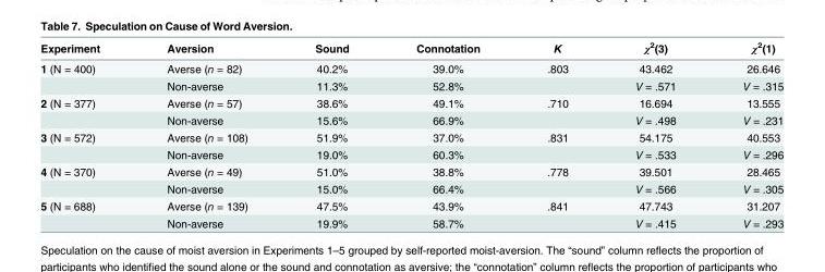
<table><thead><tr><td>Experiment</td><td>Aversion</td><td>Sound</td><td>Connotation</td><td>K</td><td>χ<sup>2</sup>(3)</td><td>χ<sup>2</sup>(1)</td></tr></thead><tbody><tr><td rowspan="2">1 (N = 400)</td><td>Averse (n = 82)</td><td>40.2%</td><td>39.0%</td><td>.803</td><td>43.462</td><td>26.646</td></tr><tr><td>Non-averse</td><td>11.3%</td><td>52.8%</td><td></td><td>V = .571</td><td>V = .315</td></tr><tr><td rowspan="2">2 (N = 377)</td><td>Averse (n = 57)</td><td>38.6%</td><td>49.1%</td><td>.710</td><td>16.694</td><td>13.555</td></tr><tr><td>Non-averse</td><td>15.6%</td><td>66.9%</td><td></td><td>V = .498</td><td>V = .231</td></tr><tr><td rowspan="2">3 (N = 572)</td><td>Averse (n = 108)</td><td>51.9%</td><td>37.0%</td><td>.831</td><td>54.175</td><td>40.553</td></tr><tr><td>Non-averse</td><td>19.0%</td><td>60.3%</td><td></td><td>V = .533</td><td>V = .296</td></tr><tr><td rowspan="2">4 (N = 370)</td><td>Averse (n = 49)</td><td>51.0%</td><td>38.8%</td><td>.778</td><td>39.501</td><td>28.465</td></tr><tr><td>Non-averse</td><td>15.0%</td><td>66.4%</td><td></td><td>V = .566</td><td>V = .305</td></tr><tr><td rowspan="2">5 (N = 688)</td><td>Averse (n = 139)</td><td>47.5%</td><td>43.9%</td><td>.841</td><td>47.743</td><td>31.207</td></tr><tr><td>Non-averse</td><td>19.9%</td><td>58.7%</td><td></td><td>V = .415</td><td>V = .293</td></tr></tbody></table>